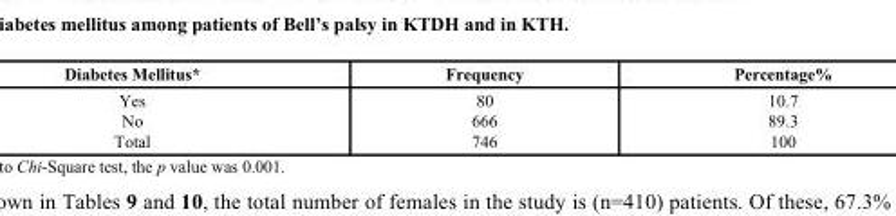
<table><thead><tr><td>Diabetes Mellitus*</td><td>Frequency</td><td>Percentage%</td></tr></thead><tbody><tr><td>Yes No Total</td><td>80 666 746</td><td>10.7 89.3 100</td></tr></tbody></table>